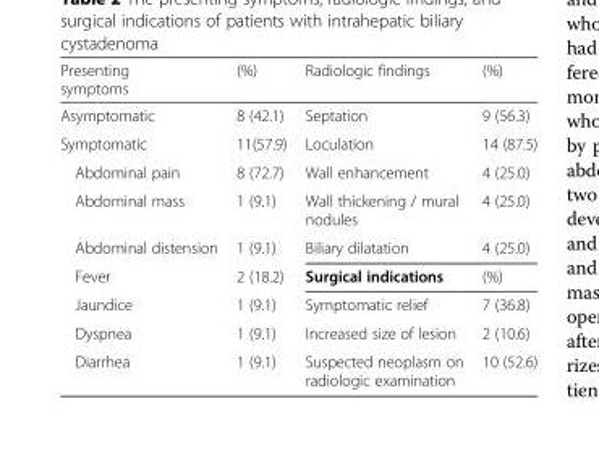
<table><thead><tr><td>Presenting symptoms</td><td>(%)</td><td>Radiologic findings</td><td>(%)</td></tr></thead><tbody><tr><td>Asymptomatic</td><td>8 (42.1)</td><td>Septation</td><td>9 (56.3)</td></tr><tr><td>Symptomatic</td><td>11(57.9)</td><td>Loculation</td><td>14 (87.5)</td></tr><tr><td>Abdominal pain</td><td>8 (72.7)</td><td>Wall enhancement</td><td>4 (25.0)</td></tr><tr><td>Abdominal mass</td><td>1 (9.1)</td><td>Wall thickening / mural nodules</td><td>4 (25.0)</td></tr><tr><td>Abdominal distension</td><td>1 (9.1)</td><td>Biliary dilatation</td><td>4 (25.0)</td></tr><tr><td>Fever</td><td>2 (18.2)</td><td>Surgical indications</td><td>(%)</td></tr><tr><td>Jaundice</td><td>1 (9.1)</td><td>Symptomatic relief</td><td>7 (36.8)</td></tr><tr><td>Dyspnea</td><td>1 (9.1)</td><td>Increased size of lesion</td><td>2 (10.6)</td></tr><tr><td>Diarrhea</td><td>1 (9.1)</td><td>Suspected neoplasm on radiologic examination</td><td>10 (52.6)</td></tr></tbody></table>